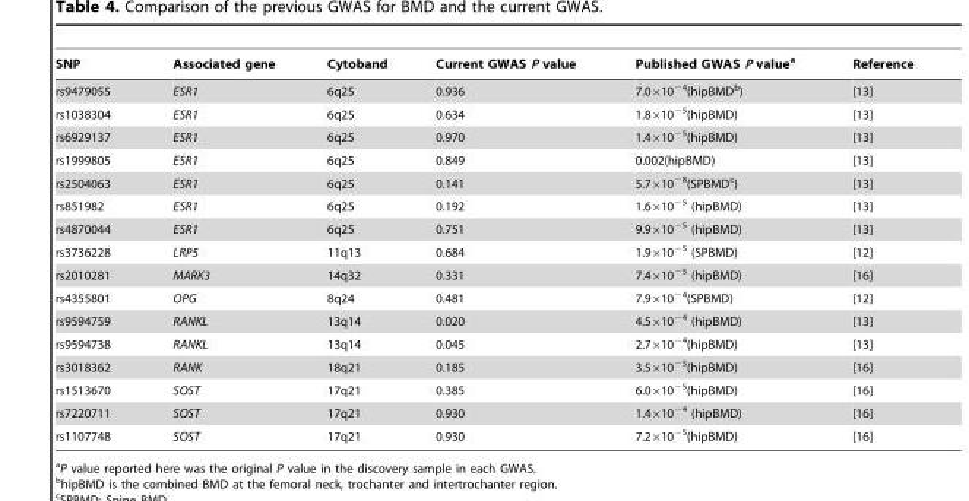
<table><thead><tr><td>SNP</td><td>Associated gene</td><td>Cytoband</td><td>Current GWAS P value</td><td>Published GWAS P value<sup>a</sup></td><td>Reference</td></tr></thead><tbody><tr><td>rs9479055</td><td>ESR1</td><td>6q25</td><td>0.936</td><td>7.0×10<sup>−4</sup>(hipBMD<sup>b</sup>)</td><td>[13]</td></tr><tr><td>rs1038304</td><td>ESR1</td><td>6q25</td><td>0.634</td><td>1.8×10<sup>−5</sup>(hipBMD)</td><td>[13]</td></tr><tr><td>rs6929137</td><td>ESR1</td><td>6q25</td><td>0.970</td><td>1.4×10<sup>−5</sup>(hipBMD)</td><td>[13]</td></tr><tr><td>rs1999805</td><td>ESR1</td><td>6q25</td><td>0.849</td><td>0.002(hipBMD)</td><td>[13]</td></tr><tr><td>rs2504063</td><td>ESR1</td><td>6q25</td><td>0.141</td><td>5.7×10<sup>−8</sup>(SPBMD<sup>c</sup>)</td><td>[13]</td></tr><tr><td>rs851982</td><td>ESR1</td><td>6q25</td><td>0.192</td><td>1.6×10<sup>−5</sup> (hipBMD)</td><td>[13]</td></tr><tr><td>rs4870044</td><td>ESR1</td><td>6q25</td><td>0.751</td><td>9.9×10<sup>−5</sup> (hipBMD)</td><td>[13]</td></tr><tr><td>rs3736228</td><td>LRP5</td><td>11q13</td><td>0.684</td><td>1.9×10<sup>−5</sup> (SPBMD)</td><td>[12]</td></tr><tr><td>rs2010281</td><td>MARK3</td><td>14q32</td><td>0.331</td><td>7.4×10<sup>−5</sup> (hipBMD)</td><td>[16]</td></tr><tr><td>rs4355801</td><td>OPG</td><td>8q24</td><td>0.481</td><td>7.9×10<sup>−4</sup>(SPBMD)</td><td>[12]</td></tr><tr><td>rs9594759</td><td>RANKL</td><td>13q14</td><td>0.020</td><td>4.5×10<sup>−4</sup> (hipBMD)</td><td>[13]</td></tr><tr><td>rs9594738</td><td>RANKL</td><td>13q14</td><td>0.045</td><td>2.7×10<sup>−4</sup>(hipBMD)</td><td>[13]</td></tr><tr><td>rs3018362</td><td>RANK</td><td>18q21</td><td>0.185</td><td>3.5×10<sup>−5</sup>(hipBMD)</td><td>[16]</td></tr><tr><td>rs1513670</td><td>SOST</td><td>17q21</td><td>0.385</td><td>6.0×10<sup>−5</sup>(hipBMD)</td><td>[16]</td></tr><tr><td>rs7220711</td><td>SOST</td><td>17q21</td><td>0.930</td><td>1.4×10<sup>−4</sup> (hipBMD)</td><td>[16]</td></tr><tr><td>rs1107748</td><td>SOST</td><td>17q21</td><td>0.930</td><td>7.2×10<sup>−5</sup>(hipBMD)</td><td>[16]</td></tr></tbody></table>